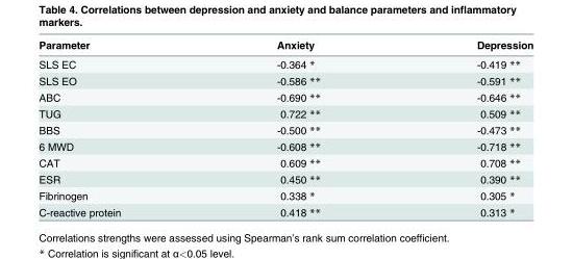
<table><thead><tr><td>Parameter</td><td>Anxiety</td><td>Depression</td></tr></thead><tbody><tr><td>SLS EC</td><td>-0.364 *</td><td>-0.419 **</td></tr><tr><td>SLS EO</td><td>-0.586 **</td><td>-0.591 **</td></tr><tr><td>ABC</td><td>-0.690 **</td><td>-0.646 **</td></tr><tr><td>TUG</td><td>0.722 **</td><td>0.509 **</td></tr><tr><td>BBS</td><td>-0.500 **</td><td>-0.473 **</td></tr><tr><td>6 MWD</td><td>-0.608 **</td><td>-0.718 **</td></tr><tr><td>CAT</td><td>0.609 **</td><td>0.708 **</td></tr><tr><td>ESR</td><td>0.450 **</td><td>0.390 **</td></tr><tr><td>Fibrinogen</td><td>0.338 *</td><td>0.305 *</td></tr><tr><td>C-reactive protein</td><td>0.418 **</td><td>0.313 *</td></tr></tbody></table>